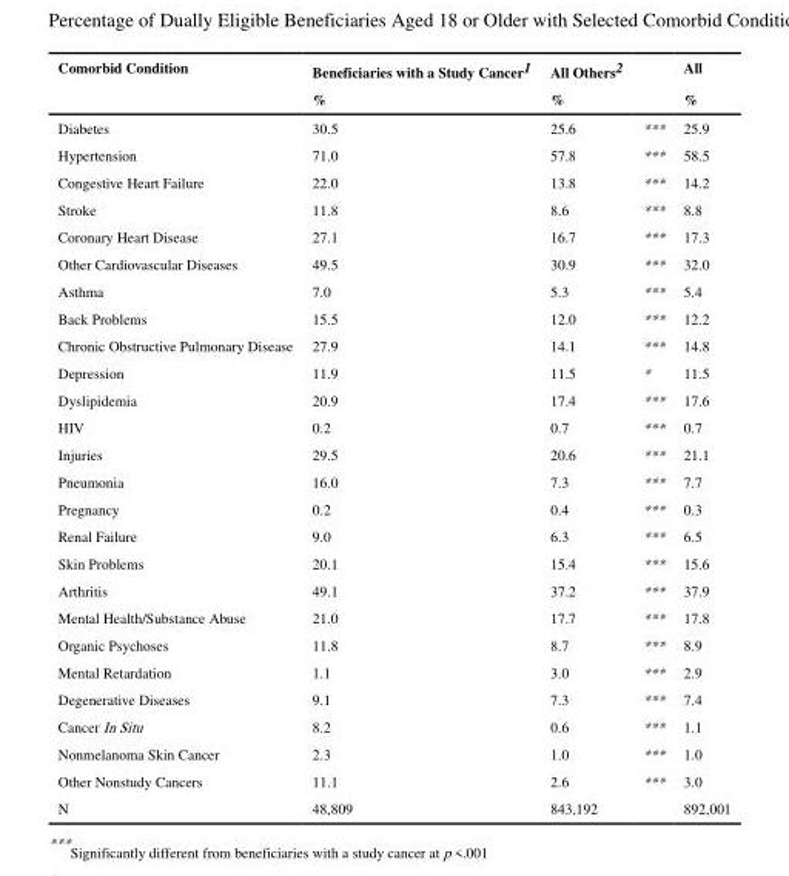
<table><thead><tr><td rowspan="2">Comorbid Condition</td><td rowspan="2">Beneficiaries with a Study Cancer<sup>1</sup> %</td><td rowspan="2">All Others<sup>2</sup> %</td><td rowspan="2"></td><td rowspan="2">All %</td></tr><tr></tr></thead><tbody><tr><td>Diabetes</td><td>30.5</td><td>25.6</td><td>***</td><td>25.9</td></tr><tr><td>Hypertension</td><td>71.0</td><td>57.8</td><td>***</td><td>58.5</td></tr><tr><td>Congestive Heart Failure</td><td>22.0</td><td>13.8</td><td>***</td><td>14.2</td></tr><tr><td>Stroke</td><td>11.8</td><td>8.6</td><td>***</td><td>8.8</td></tr><tr><td>Coronary Heart Disease</td><td>27.1</td><td>16.7</td><td>***</td><td>17.3</td></tr><tr><td>Other Cardiovascular Diseases</td><td>49.5</td><td>30.9</td><td>***</td><td>32.0</td></tr><tr><td>Asthma</td><td>7.0</td><td>5.3</td><td>***</td><td>5.4</td></tr><tr><td>Back Problems</td><td>15.5</td><td>12.0</td><td>***</td><td>12.2</td></tr><tr><td>Chronic Obstructive Pulmonary Disease</td><td>27.9</td><td>14.1</td><td>***</td><td>14.8</td></tr><tr><td>Depression</td><td>11.9</td><td>11.5</td><td>*</td><td>11.5</td></tr><tr><td>Dyslipidemia</td><td>20.9</td><td>17.4</td><td>***</td><td>17.6</td></tr><tr><td>HIV</td><td>0.2</td><td>0.7</td><td>***</td><td>0.7</td></tr><tr><td>Injuries</td><td>29.5</td><td>20.6</td><td>***</td><td>21.1</td></tr><tr><td>Pneumonia</td><td>16.0</td><td>7.3</td><td>***</td><td>7.7</td></tr><tr><td>Pregnancy</td><td>0.2</td><td>0.4</td><td>***</td><td>0.3</td></tr><tr><td>Renal Failure</td><td>9.0</td><td>6.3</td><td>***</td><td>6.5</td></tr><tr><td>Skin Problems</td><td>20.1</td><td>15.4</td><td>***</td><td>15.6</td></tr><tr><td>Arthritis</td><td>49.1</td><td>37.2</td><td>***</td><td>37.9</td></tr><tr><td>Mental Health/Substance Abuse</td><td>21.0</td><td>17.7</td><td>***</td><td>17.8</td></tr><tr><td>Organic Psychoses</td><td>11.8</td><td>8.7</td><td>***</td><td>8.9</td></tr><tr><td>Mental Retardation</td><td>1.1</td><td>3.0</td><td>***</td><td>2.9</td></tr><tr><td>Degenerative Diseases</td><td>9.1</td><td>7.3</td><td>***</td><td>7.4</td></tr><tr><td>Cancer In Situ</td><td>8.2</td><td>0.6</td><td>***</td><td>1.1</td></tr><tr><td>Nonmelanoma Skin Cancer</td><td>2.3</td><td>1.0</td><td>***</td><td>1.0</td></tr><tr><td>Other Nonstudy Cancers</td><td>11.1</td><td>2.6</td><td>***</td><td>3.0</td></tr><tr><td>N</td><td>48,809</td><td>843,192</td><td></td><td>892,001</td></tr></tbody></table>